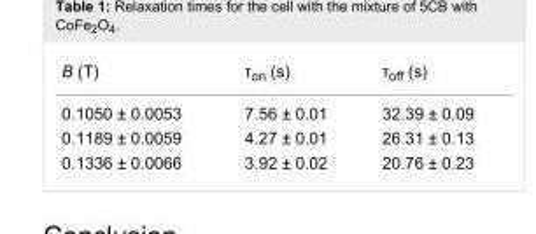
<table><tbody><tr><td>B (T)</td><td>τ<sub>on</sub> (s)</td><td>τ<sub>off</sub> (s)</td></tr><tr><td>0.1050 ± 0.0053</td><td>7.56 ± 0.01</td><td>32.39 ± 0.09</td></tr><tr><td>0.1189 ± 0.0059</td><td>4.27 ± 0.01</td><td>26.31 ± 0.13</td></tr><tr><td>0.1336 ± 0.0066</td><td>3.92 ± 0.02</td><td>20.76 ± 0.23</td></tr></tbody></table>